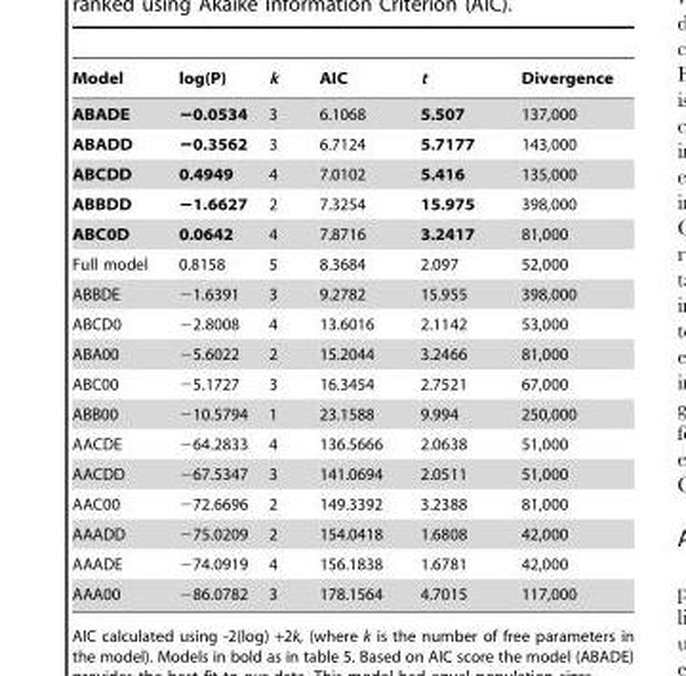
<table><thead><tr><td>Model</td><td>log(P)</td><td>k</td><td>AIC</td><td>t</td><td>Divergence</td></tr></thead><tbody><tr><td>ABADE</td><td>−0.0534</td><td>3</td><td>6.1068</td><td>5.507</td><td>137,000</td></tr><tr><td>ABADD</td><td>−0.3562</td><td>3</td><td>6.7124</td><td>5.7177</td><td>143,000</td></tr><tr><td>ABCDD</td><td>0.4949</td><td>4</td><td>7.0102</td><td>5.416</td><td>135,000</td></tr><tr><td>ABBDD</td><td>−1.6627</td><td>2</td><td>7.3254</td><td>15.975</td><td>398,000</td></tr><tr><td>ABC0D</td><td>0.0642</td><td>4</td><td>7.8716</td><td>3.2417</td><td>81,000</td></tr><tr><td>Full model</td><td>0.8158</td><td>5</td><td>8.3684</td><td>2.097</td><td>52,000</td></tr><tr><td>ABBDE</td><td>−1.6391</td><td>3</td><td>9.2782</td><td>15.955</td><td>398,000</td></tr><tr><td>ABCD0</td><td>−2.8008</td><td>4</td><td>13.6016</td><td>2.1142</td><td>53,000</td></tr><tr><td>ABA00</td><td>−5.6022</td><td>2</td><td>15.2044</td><td>3.2466</td><td>81,000</td></tr><tr><td>ABC00</td><td>−5.1727</td><td>3</td><td>16.3454</td><td>2.7521</td><td>67,000</td></tr><tr><td>ABB00</td><td>−10.5794</td><td>1</td><td>23.1588</td><td>9.994</td><td>250,000</td></tr><tr><td>AACDE</td><td>−64.2833</td><td>4</td><td>136.5666</td><td>2.0638</td><td>51,000</td></tr><tr><td>AACDD</td><td>−67.5347</td><td>3</td><td>141.0694</td><td>2.0511</td><td>51,000</td></tr><tr><td>AAC00</td><td>−72.6696</td><td>2</td><td>149.3392</td><td>3.2388</td><td>81,000</td></tr><tr><td>AAADD</td><td>−75.0209</td><td>2</td><td>154.0418</td><td>1.6808</td><td>42,000</td></tr><tr><td>AAADE</td><td>−74.0919</td><td>4</td><td>156.1838</td><td>1.6781</td><td>42,000</td></tr><tr><td>AAA00</td><td>−86.0782</td><td>3</td><td>178.1564</td><td>4.7015</td><td>117,000</td></tr></tbody></table>